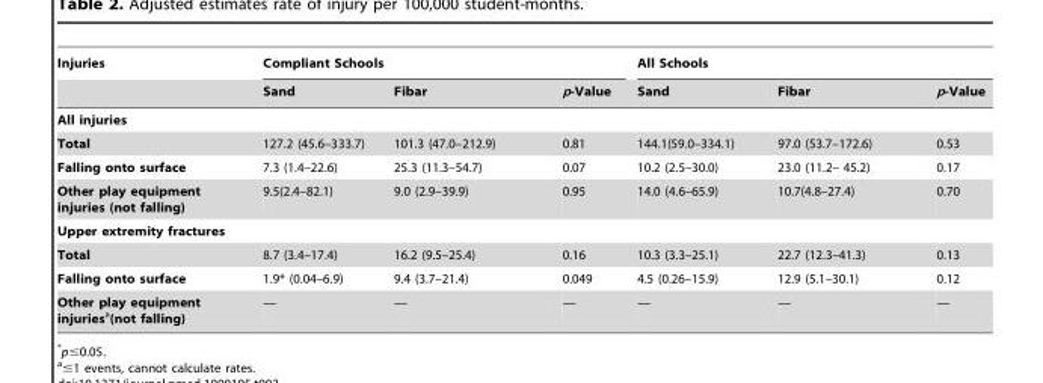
<table><thead><tr><td rowspan="2">Injuries</td><td colspan="3">Compliant Schools</td><td colspan="3">All Schools</td></tr><tr><td>Sand</td><td>Fibar</td><td>p-Value</td><td>Sand</td><td>Fibar</td><td>p-Value</td></tr></thead><tbody><tr><td colspan="7">All injuries</td></tr><tr><td>Total</td><td>127.2 (45.6–333.7)</td><td>101.3 (47.0–212.9)</td><td>0.81</td><td>144.1(59.0–334.1)</td><td>97.0 (53.7–172.6)</td><td>0.53</td></tr><tr><td>Falling onto surface</td><td>7.3 (1.4–22.6)</td><td>25.3 (11.3–54.7)</td><td>0.07</td><td>10.2 (2.5–30.0)</td><td>23.0 (11.2– 45.2)</td><td>0.17</td></tr><tr><td>Other play equipment injuries (not falling)</td><td>9.5(2.4–82.1)</td><td>9.0 (2.9–39.9)</td><td>0.95</td><td>14.0 (4.6–65.9)</td><td>10.7(4.8–27.4)</td><td>0.70</td></tr><tr><td colspan="7">Upper extremity fractures</td></tr><tr><td>Total</td><td>8.7 (3.4–17.4)</td><td>16.2 (9.5–25.4)</td><td>0.16</td><td>10.3 (3.3–25.1)</td><td>22.7 (12.3–41.3)</td><td>0.13</td></tr><tr><td>Falling onto surface</td><td>1.9* (0.04–6.9)</td><td>9.4 (3.7–21.4)</td><td>0.049</td><td>4.5 (0.26–15.9)</td><td>12.9 (5.1–30.1)</td><td>0.12</td></tr><tr><td>Other play equipment injuriesa(not falling)</td><td>—</td><td>—</td><td>—</td><td>—</td><td>—</td><td>—</td></tr></tbody></table>